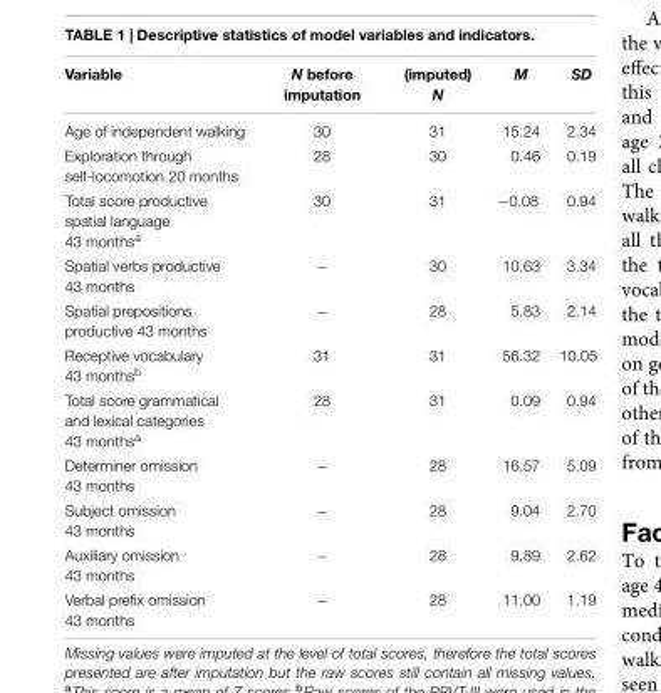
<table><thead><tr><td>Variable</td><td>N before imputation</td><td>(imputed) N</td><td>M</td><td>SD</td></tr></thead><tbody><tr><td>Age of independent walking</td><td>30</td><td>31</td><td>15.24</td><td>2.34</td></tr><tr><td>Exploration through self-locomotion 20 months</td><td>28</td><td>30</td><td>0.46</td><td>0.19</td></tr><tr><td>Total score productive spatial language 43 months<sup>a</sup></td><td>30</td><td>31</td><td>−0.08</td><td>0.94</td></tr><tr><td>Spatial verbs productive 43 months</td><td>−</td><td>30</td><td>10.63</td><td>3.34</td></tr><tr><td>Spatial prepositions productive 43 months</td><td>−</td><td>28</td><td>5.83</td><td>2.14</td></tr><tr><td>Receptive vocabulary 43 months<sup>b</sup></td><td>31</td><td>31</td><td>56.32</td><td>10.05</td></tr><tr><td>Total score grammatical and lexical categories 43 months<sup>a</sup></td><td>28</td><td>31</td><td>0.09</td><td>0.94</td></tr><tr><td>Determiner omission 43 months</td><td>−</td><td>28</td><td>16.57</td><td>5.09</td></tr><tr><td>Subject omission 43 months</td><td>−</td><td>28</td><td>9.04</td><td>2.70</td></tr><tr><td>Auxiliary omission 43 months</td><td>−</td><td>28</td><td>9.89</td><td>2.62</td></tr><tr><td>Verbal prefix omission 43 months</td><td>−</td><td>28</td><td>11.00</td><td>1.19</td></tr></tbody></table>